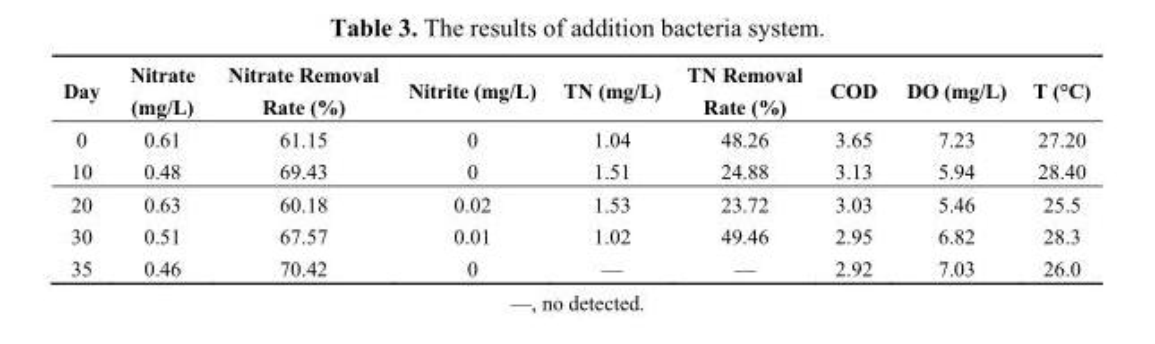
<table><thead><tr><td>Day</td><td>Nitrate (mg/L)</td><td>Nitrate Removal Rate (%)</td><td>Nitrite (mg/L)</td><td>TN (mg/L)</td><td>TN Removal Rate (%)</td><td>COD</td><td>DO (mg/L)</td><td>T (°C)</td></tr></thead><tbody><tr><td>0</td><td>0.61</td><td>61.15</td><td>0</td><td>1.04</td><td>48.26</td><td>3.65</td><td>7.23</td><td>27.20</td></tr><tr><td>10</td><td>0.48</td><td>69.43</td><td>0</td><td>1.51</td><td>24.88</td><td>3.13</td><td>5.94</td><td>28.40</td></tr><tr><td>20</td><td>0.63</td><td>60.18</td><td>0.02</td><td>1.53</td><td>23.72</td><td>3.03</td><td>5.46</td><td>25.5</td></tr><tr><td>30</td><td>0.51</td><td>67.57</td><td>0.01</td><td>1.02</td><td>49.46</td><td>2.95</td><td>6.82</td><td>28.3</td></tr><tr><td>35</td><td>0.46</td><td>70.42</td><td>0</td><td>—</td><td>—</td><td>2.92</td><td>7.03</td><td>26.0</td></tr></tbody></table>